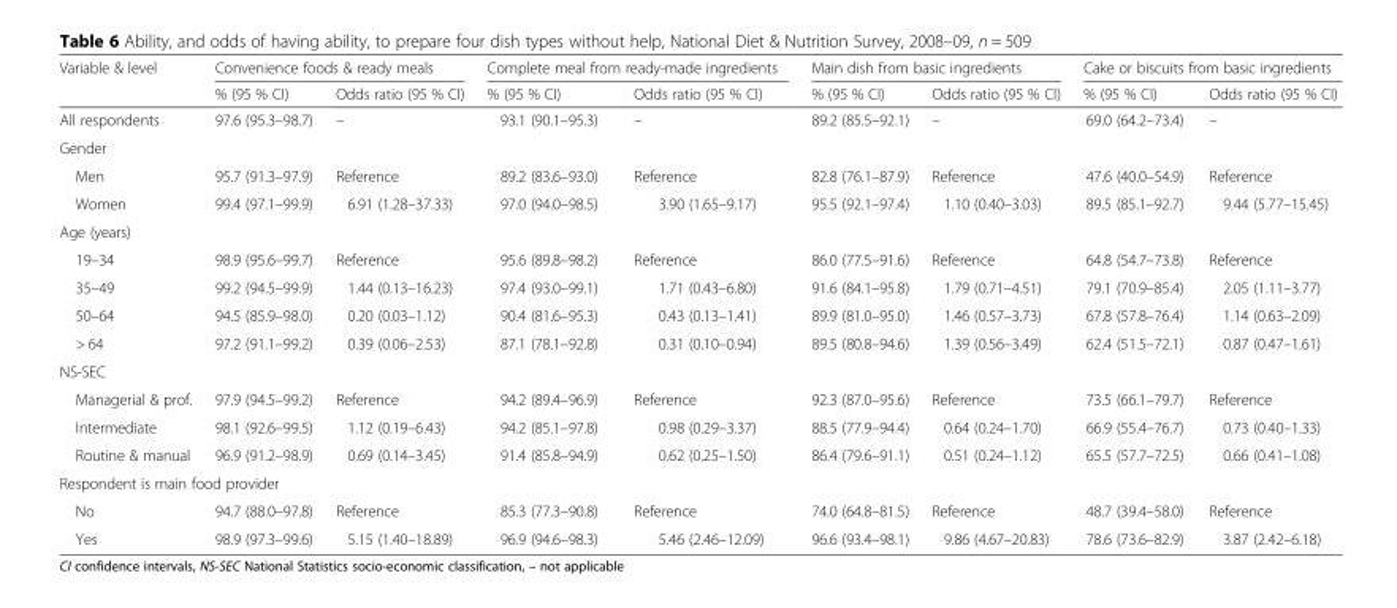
<table><thead><tr><td rowspan="2">Variable &amp; level</td><td colspan="2">Convenience foods &amp; ready meals</td><td colspan="2">Complete meal from ready-made ingredients</td><td colspan="2">Main dish from basic ingredients</td><td colspan="2">Cake or biscuits from basic ingredients</td></tr><tr><td>% (95 % CI)</td><td>Odds ratio (95 % CI)</td><td>% (95 % CI)</td><td>Odds ratio (95 % CI)</td><td>% (95 % CI)</td><td>Odds ratio (95 % CI)</td><td>% (95 % CI)</td><td>Odds ratio (95 % CI)</td></tr></thead><tbody><tr><td>All respondents</td><td>97.6 (95.3–98.7)</td><td>–</td><td>93.1 (90.1–95.3)</td><td>–</td><td>89.2 (85.5–92.1)</td><td>–</td><td>69.0 (64.2–73.4)</td><td>–</td></tr><tr><td colspan="9">Gender</td></tr><tr><td>Men</td><td>95.7 (91.3–97.9)</td><td>Reference</td><td>89.2 (83.6–93.0)</td><td>Reference</td><td>82.8 (76.1–87.9)</td><td>Reference</td><td>47.6 (40.0–54.9)</td><td>Reference</td></tr><tr><td>Women</td><td>99.4 (97.1–99.9)</td><td>6.91 (1.28–37.33)</td><td>97.0 (94.0–98.5)</td><td>3.90 (1.65–9.17)</td><td>95.5 (92.1–97.4)</td><td>1.10 (0.40–3.03)</td><td>89.5 (85.1–92.7)</td><td>9.44 (5.77–15.45)</td></tr><tr><td colspan="9">Age (years)</td></tr><tr><td>19–34</td><td>98.9 (95.6–99.7)</td><td>Reference</td><td>95.6 (89.8–98.2)</td><td>Reference</td><td>86.0 (77.5–91.6)</td><td>Reference</td><td>64.8 (54.7–73.8)</td><td>Reference</td></tr><tr><td>35–49</td><td>99.2 (94.5–99.9)</td><td>1.44 (0.13–16.23)</td><td>97.4 (93.0–99.1)</td><td>1.71 (0.43–6.80)</td><td>91.6 (84.1–95.8)</td><td>1.79 (0.71–4.51)</td><td>79.1 (70.9–85.4)</td><td>2.05 (1.11–3.77)</td></tr><tr><td>50–64</td><td>94.5 (85.9–98.0)</td><td>0.20 (0.03–1.12)</td><td>90.4 (81.6–95.3)</td><td>0.43 (0.13–1.41)</td><td>89.9 (81.0–95.0)</td><td>1.46 (0.57–3.73)</td><td>67.8 (57.8–76.4)</td><td>1.14 (0.63–2.09)</td></tr><tr><td>&gt; 64</td><td>97.2 (91.1–99.2)</td><td>0.39 (0.06–2.53)</td><td>87.1 (78.1–92.8)</td><td>0.31 (0.10–0.94)</td><td>89.5 (80.8–94.6)</td><td>1.39 (0.56–3.49)</td><td>62.4 (51.5–72.1)</td><td>0.87 (0.47–1.61)</td></tr><tr><td colspan="9">NS-SEC</td></tr><tr><td>Managerial &amp; prof.</td><td>97.9 (94.5–99.2)</td><td>Reference</td><td>94.2 (89.4–96.9)</td><td>Reference</td><td>92.3 (87.0–95.6)</td><td>Reference</td><td>73.5 (66.1–79.7)</td><td>Reference</td></tr><tr><td>Intermediate</td><td>98.1 (92.6–99.5)</td><td>1.12 (0.19–6.43)</td><td>94.2 (85.1–97.8)</td><td>0.98 (0.29–3.37)</td><td>88.5 (77.9–94.4)</td><td>0.64 (0.24–1.70)</td><td>66.9 (55.4–76.7)</td><td>0.73 (0.40–1.33)</td></tr><tr><td>Routine &amp; manual</td><td>96.9 (91.2–98.9)</td><td>0.69 (0.14–3.45)</td><td>91.4 (85.8–94.9)</td><td>0.62 (0.25–1.50)</td><td>86.4 (79.6–91.1)</td><td>0.51 (0.24–1.12)</td><td>65.5 (57.7–72.5)</td><td>0.66 (0.41–1.08)</td></tr><tr><td colspan="9">Respondent is main food provider</td></tr><tr><td>No</td><td>94.7 (88.0–97.8)</td><td>Reference</td><td>85.3 (77.3–90.8)</td><td>Reference</td><td>74.0 (64.8–81.5)</td><td>Reference</td><td>48.7 (39.4–58.0)</td><td>Reference</td></tr><tr><td>Yes</td><td>98.9 (97.3–99.6)</td><td>5.15 (1.40–18.89)</td><td>96.9 (94.6–98.3)</td><td>5.46 (2.46–12.09)</td><td>96.6 (93.4–98.1)</td><td>9.86 (4.67–20.83)</td><td>78.6 (73.6–82.9)</td><td>3.87 (2.42–6.18)</td></tr></tbody></table>